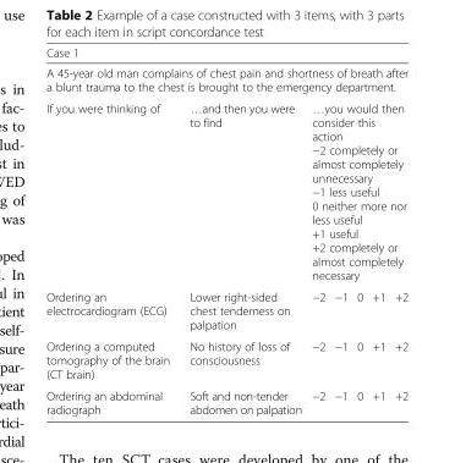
<table><thead><tr><td rowspan="2" colspan="7">Case 1 A 45-year old man complains of chest pain and shortness of breath after a blunt trauma to the chest is brought to the emergency department.</td></tr><tr></tr><tr><td rowspan="2">If you were thinking of Ordering an electrocardiogram (ECG)</td><td rowspan="2">…and then you were to find Lower right-sided chest tenderness on palpation</td><td colspan="5">…you would then consider this action −2 completely or almost completely unnecessary −1 less useful 0 neither more nor less useful +1 useful +2 completely or almost completely necessary</td></tr><tr><td>−2</td><td>−1</td><td>0</td><td>+1</td><td>+2</td></tr></thead><tbody><tr><td>Ordering a computed tomography of the brain (CT brain)</td><td>No history of loss of consciousness</td><td>−2</td><td>−1</td><td>0</td><td>+1</td><td>+2</td></tr><tr><td>Ordering an abdominal radiograph</td><td>Soft and non-tender abdomen on palpation</td><td>−2</td><td>−1</td><td>0</td><td>+1</td><td>+2</td></tr></tbody></table>